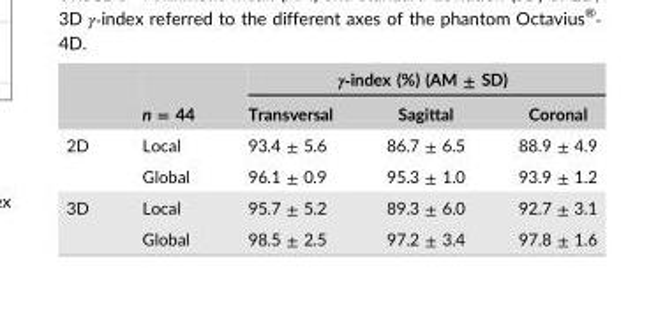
<table><thead><tr><td rowspan="2"></td><td rowspan="2">n = 44</td><td colspan="3">γ‐index (%) (AM ± SD)</td></tr><tr><td>Transversal</td><td>Sagittal</td><td>Coronal</td></tr></thead><tbody><tr><td rowspan="2">2D</td><td>Local</td><td>93.4 ± 5.6</td><td>86.7 ± 6.5</td><td>88.9 ± 4.9</td></tr><tr><td>Global</td><td>96.1 ± 0.9</td><td>95.3 ± 1.0</td><td>93.9 ± 1.2</td></tr><tr><td rowspan="2">3D</td><td>Local</td><td>95.7 ± 5.2</td><td>89.3 ± 6.0</td><td>92.7 ± 3.1</td></tr><tr><td>Global</td><td>98.5 ± 2.5</td><td>97.2 ± 3.4</td><td>97.8 ± 1.6</td></tr></tbody></table>